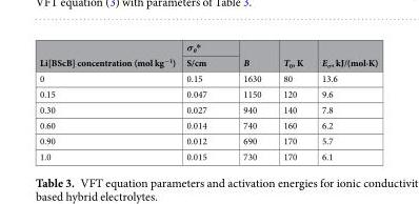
<table><thead><tr><td rowspan="2">Li[BScB] concentration (mol kg<sup>−1</sup>)</td><td rowspan="2">σ<sub>0</sub>* S/cm</td><td rowspan="2">B</td><td rowspan="2">T<sub>0</sub>, K</td><td rowspan="2">E<sub>σ</sub>, kJ/(mol·K)</td></tr><tr></tr></thead><tbody><tr><td>0</td><td>0.15</td><td>1630</td><td>80</td><td>13.6</td></tr><tr><td>0.15</td><td>0.047</td><td>1150</td><td>120</td><td>9.6</td></tr><tr><td>0.30</td><td>0.027</td><td>940</td><td>140</td><td>7.8</td></tr><tr><td>0.60</td><td>0.014</td><td>740</td><td>160</td><td>6.2</td></tr><tr><td>0.90</td><td>0.012</td><td>690</td><td>170</td><td>5.7</td></tr><tr><td>1.0</td><td>0.015</td><td>730</td><td>170</td><td>6.1</td></tr></tbody></table>